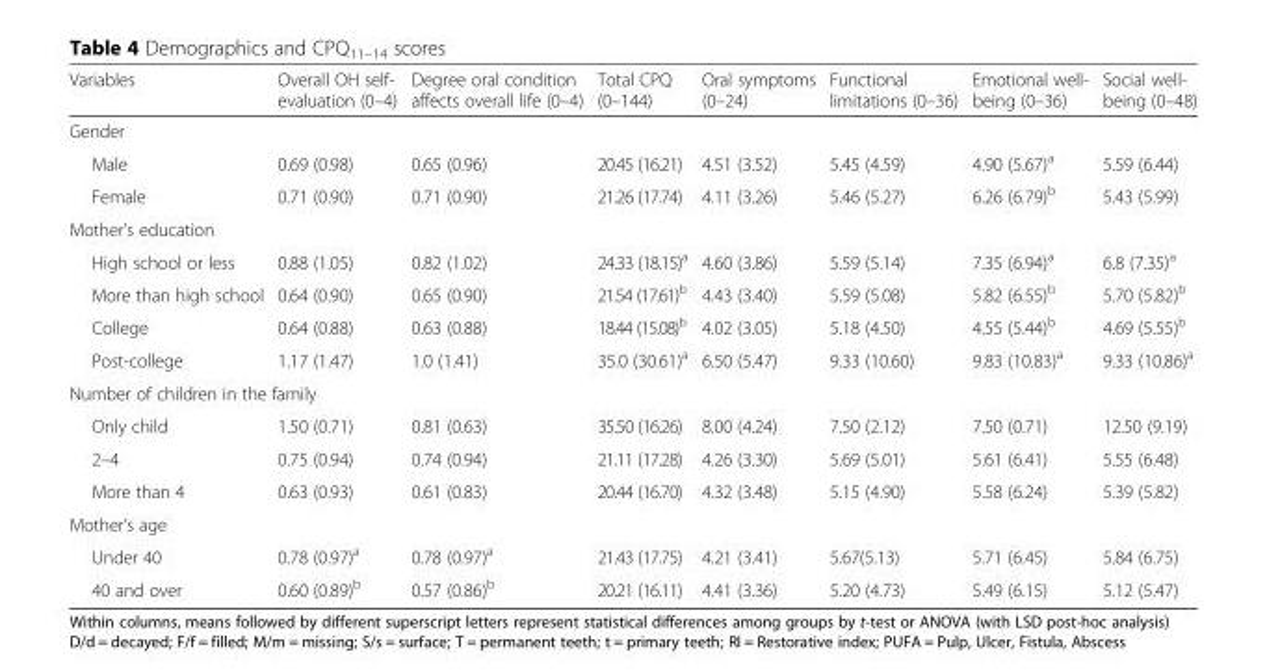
<table><thead><tr><td>Variables</td><td>Overall OH self- evaluation (0–4)</td><td>Degree oral condition affects overall life (0–4)</td><td>Total CPQ (0–144)</td><td>Oral symptoms (0–24)</td><td>Functional limitations (0–36)</td><td>Emotional well- being (0–36)</td><td>Social well- being (0–48)</td></tr></thead><tbody><tr><td colspan="8">Gender</td></tr><tr><td>Male</td><td>0.69 (0.98)</td><td>0.65 (0.96)</td><td>20.45 (16.21)</td><td>4.51 (3.52)</td><td>5.45 (4.59)</td><td>4.90 (5.67)<sup>a</sup></td><td>5.59 (6.44)</td></tr><tr><td>Female</td><td>0.71 (0.90)</td><td>0.71 (0.90)</td><td>21.26 (17.74)</td><td>4.11 (3.26)</td><td>5.46 (5.27)</td><td>6.26 (6.79)<sup>b</sup></td><td>5.43 (5.99)</td></tr><tr><td colspan="8">Mother’s education</td></tr><tr><td>High school or less</td><td>0.88 (1.05)</td><td>0.82 (1.02)</td><td>24.33 (18.15)<sup>a</sup></td><td>4.60 (3.86)</td><td>5.59 (5.14)</td><td>7.35 (6.94)<sup>a</sup></td><td>6.8 (7.35)<sup>a</sup></td></tr><tr><td>More than high school</td><td>0.64 (0.90)</td><td>0.65 (0.90)</td><td>21.54 (17.61)<sup>b</sup></td><td>4.43 (3.40)</td><td>5.59 (5.08)</td><td>5.82 (6.55)<sup>b</sup></td><td>5.70 (5.82)<sup>b</sup></td></tr><tr><td>College</td><td>0.64 (0.88)</td><td>0.63 (0.88)</td><td>18.44 (15.08)<sup>b</sup></td><td>4.02 (3.05)</td><td>5.18 (4.50)</td><td>4.55 (5.44)<sup>b</sup></td><td>4.69 (5.55)<sup>b</sup></td></tr><tr><td>Post-college</td><td>1.17 (1.47)</td><td>1.0 (1.41)</td><td>35.0 (30.61)<sup>a</sup></td><td>6.50 (5.47)</td><td>9.33 (10.60)</td><td>9.83 (10.83)<sup>a</sup></td><td>9.33 (10.86)<sup>a</sup></td></tr><tr><td colspan="8">Number of children in the family</td></tr><tr><td>Only child</td><td>1.50 (0.71)</td><td>0.81 (0.63)</td><td>35.50 (16.26)</td><td>8.00 (4.24)</td><td>7.50 (2.12)</td><td>7.50 (0.71)</td><td>12.50 (9.19)</td></tr><tr><td>2–4</td><td>0.75 (0.94)</td><td>0.74 (0.94)</td><td>21.11 (17.28)</td><td>4.26 (3.30)</td><td>5.69 (5.01)</td><td>5.61 (6.41)</td><td>5.55 (6.48)</td></tr><tr><td>More than 4</td><td>0.63 (0.93)</td><td>0.61 (0.83)</td><td>20.44 (16.70)</td><td>4.32 (3.48)</td><td>5.15 (4.90)</td><td>5.58 (6.24)</td><td>5.39 (5.82)</td></tr><tr><td colspan="8">Mother’s age</td></tr><tr><td>Under 40</td><td>0.78 (0.97)<sup>a</sup></td><td>0.78 (0.97)<sup>a</sup></td><td>21.43 (17.75)</td><td>4.21 (3.41)</td><td>5.67(5.13)</td><td>5.71 (6.45)</td><td>5.84 (6.75)</td></tr><tr><td>40 and over</td><td>0.60 (0.89)<sup>b</sup></td><td>0.57 (0.86)<sup>b</sup></td><td>20.21 (16.11)</td><td>4.41 (3.36)</td><td>5.20 (4.73)</td><td>5.49 (6.15)</td><td>5.12 (5.47)</td></tr></tbody></table>